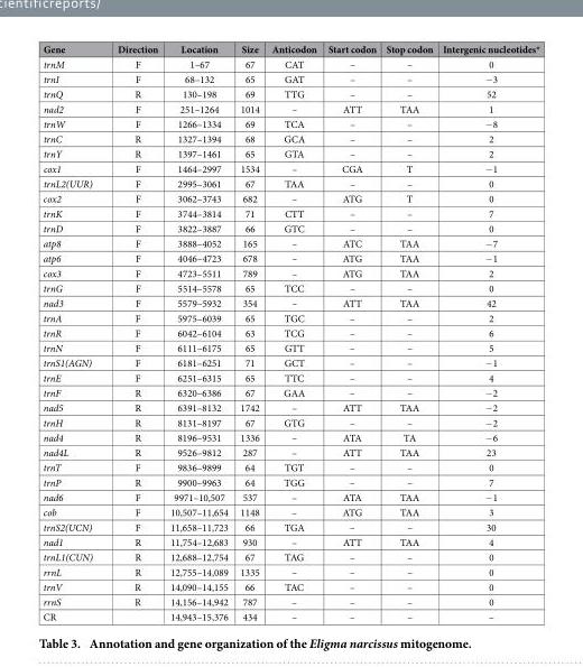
<table><thead><tr><td>Gene</td><td>Direction</td><td>Location</td><td>Size</td><td>Anticodon</td><td>Start codon</td><td>Stop codon</td><td>Intergenic nucleotides*</td></tr></thead><tbody><tr><td>trnM</td><td>F</td><td>1–67</td><td>67</td><td>CAT</td><td>–</td><td>–</td><td>0</td></tr><tr><td>trnI</td><td>F</td><td>68–132</td><td>65</td><td>GAT</td><td>–</td><td>–</td><td>− 3</td></tr><tr><td>trnQ</td><td>R</td><td>130–198</td><td>69</td><td>TTG</td><td>–</td><td>–</td><td>52</td></tr><tr><td>nad2</td><td>F</td><td>251–1264</td><td>1014</td><td>–</td><td>ATT</td><td>TAA</td><td>1</td></tr><tr><td>trnW</td><td>F</td><td>1266–1334</td><td>69</td><td>TCA</td><td>–</td><td>–</td><td>− 8</td></tr><tr><td>trnC</td><td>R</td><td>1327–1394</td><td>68</td><td>GCA</td><td>–</td><td>–</td><td>2</td></tr><tr><td>trnY</td><td>R</td><td>1397–1461</td><td>65</td><td>GTA</td><td>–</td><td>–</td><td>2</td></tr><tr><td>cox1</td><td>F</td><td>1464–2997</td><td>1534</td><td>–</td><td>CGA</td><td>T</td><td>− 1</td></tr><tr><td>trnL2(UUR)</td><td>F</td><td>2995–3061</td><td>67</td><td>TAA</td><td>–</td><td>–</td><td>0</td></tr><tr><td>cox2</td><td>F</td><td>3062–3743</td><td>682</td><td>–</td><td>ATG</td><td>T</td><td>0</td></tr><tr><td>trnK</td><td>F</td><td>3744–3814</td><td>71</td><td>CTT</td><td>–</td><td>–</td><td>7</td></tr><tr><td>trnD</td><td>F</td><td>3822–3887</td><td>66</td><td>GTC</td><td>–</td><td>–</td><td>0</td></tr><tr><td>atp8</td><td>F</td><td>3888–4052</td><td>165</td><td>–</td><td>ATC</td><td>TAA</td><td>− 7</td></tr><tr><td>atp6</td><td>F</td><td>4046–4723</td><td>678</td><td>–</td><td>ATG</td><td>TAA</td><td>− 1</td></tr><tr><td>cox3</td><td>F</td><td>4723–5511</td><td>789</td><td>–</td><td>ATG</td><td>TAA</td><td>2</td></tr><tr><td>trnG</td><td>F</td><td>5514–5578</td><td>65</td><td>TCC</td><td>–</td><td>–</td><td>0</td></tr><tr><td>nad3</td><td>F</td><td>5579–5932</td><td>354</td><td>–</td><td>ATT</td><td>TAA</td><td>42</td></tr><tr><td>trnA</td><td>F</td><td>5975–6039</td><td>65</td><td>TGC</td><td>–</td><td>–</td><td>2</td></tr><tr><td>trnR</td><td>F</td><td>6042–6104</td><td>63</td><td>TCG</td><td>–</td><td>–</td><td>6</td></tr><tr><td>trnN</td><td>F</td><td>6111–6175</td><td>65</td><td>GTT</td><td>–</td><td>–</td><td>5</td></tr><tr><td>trnS1(AGN)</td><td>F</td><td>6181–6251</td><td>71</td><td>GCT</td><td>–</td><td>–</td><td>− 1</td></tr><tr><td>trnE</td><td>F</td><td>6251–6315</td><td>65</td><td>TTC</td><td>–</td><td>–</td><td>4</td></tr><tr><td>trnF</td><td>R</td><td>6320–6386</td><td>67</td><td>GAA</td><td>–</td><td>–</td><td>− 2</td></tr><tr><td>nad5</td><td>R</td><td>6391–8132</td><td>1742</td><td>–</td><td>ATT</td><td>TAA</td><td>− 2</td></tr><tr><td>trnH</td><td>R</td><td>8131–8197</td><td>67</td><td>GTG</td><td>–</td><td>–</td><td>− 2</td></tr><tr><td>nad4</td><td>R</td><td>8196–9531</td><td>1336</td><td>–</td><td>ATA</td><td>TA</td><td>− 6</td></tr><tr><td>nad4L</td><td>R</td><td>9526–9812</td><td>287</td><td>–</td><td>ATT</td><td>TAA</td><td>23</td></tr><tr><td>trnT</td><td>F</td><td>9836–9899</td><td>64</td><td>TGT</td><td>–</td><td>–</td><td>0</td></tr><tr><td>trnP</td><td>R</td><td>9900–9963</td><td>64</td><td>TGG</td><td>–</td><td>–</td><td>7</td></tr><tr><td>nad6</td><td>F</td><td>9971–10,507</td><td>537</td><td>–</td><td>ATA</td><td>TAA</td><td>− 1</td></tr><tr><td>cob</td><td>F</td><td>10,507–11,654</td><td>1148</td><td>–</td><td>ATG</td><td>TAA</td><td>3</td></tr><tr><td>trnS2(UCN)</td><td>F</td><td>11,658–11,723</td><td>66</td><td>TGA</td><td>–</td><td>–</td><td>30</td></tr><tr><td>nad1</td><td>R</td><td>11,754–12,683</td><td>930</td><td>–</td><td>ATT</td><td>TAA</td><td>4</td></tr><tr><td>trnL1(CUN)</td><td>R</td><td>12,688–12,754</td><td>67</td><td>TAG</td><td>–</td><td>–</td><td>0</td></tr><tr><td>rrnL</td><td>R</td><td>12,755–14,089</td><td>1335</td><td>–</td><td>–</td><td>–</td><td>0</td></tr><tr><td>trnV</td><td>R</td><td>14,090–14,155</td><td>66</td><td>TAC</td><td>–</td><td>–</td><td>0</td></tr><tr><td>rrnS</td><td>R</td><td>14,156–14,942</td><td>787</td><td>–</td><td>–</td><td>–</td><td>0</td></tr><tr><td>CR</td><td></td><td>14,943–15,376</td><td>434</td><td>–</td><td>–</td><td>–</td><td>–</td></tr></tbody></table>